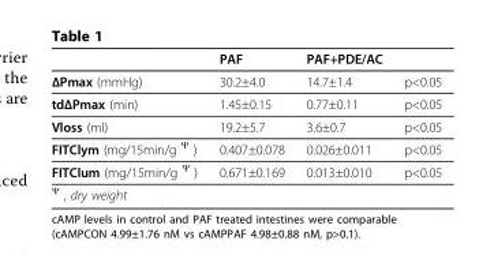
<table><thead><tr><td></td><td>PAF</td><td>PAF+PDE/AC</td><td></td></tr></thead><tbody><tr><td>ΔPmax (mmHg)</td><td>30.2±4.0</td><td>14.7±1.4</td><td>p&lt;0.05</td></tr><tr><td>tdΔPmax (min)</td><td>1.45±0.15</td><td>0.77±0.11</td><td>p&lt;0.05</td></tr><tr><td>Vloss (ml)</td><td>19.2±5.7</td><td>3.6±0.7</td><td>p&lt;0.05</td></tr><tr><td>FITClym (mg/15min/g <sup>Ψ</sup> )</td><td>0.407±0.078</td><td>0.026±0.011</td><td>p&lt;0.05</td></tr><tr><td>FITClum (mg/15min/g <sup>Ψ</sup> )</td><td>0.671±0.169</td><td>0.013±0.010</td><td>p&lt;0.05</td></tr><tr><td><sup>Ψ</sup> , dry weight</td><td></td><td></td><td></td></tr></tbody></table>